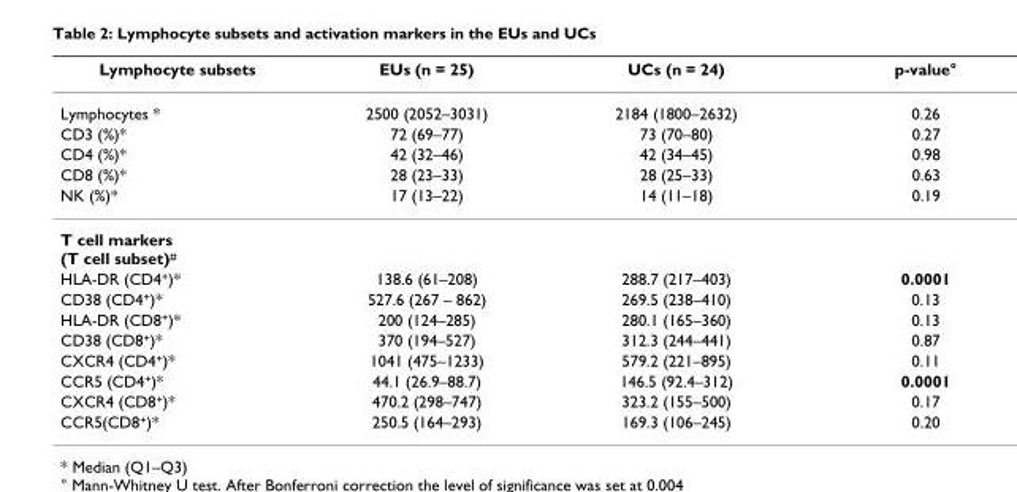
<table><thead><tr><td>Lymphocyte subsets</td><td>EUs (n = 25)</td><td>UCs (n = 24)</td><td>p-value°</td></tr></thead><tbody><tr><td>Lymphocytes *</td><td>2500 (2052–3031)</td><td>2184 (1800–2632)</td><td>0.26</td></tr><tr><td>CD3 (%)*</td><td>72 (69–77)</td><td>73 (70–80)</td><td>0.27</td></tr><tr><td>CD4 (%)*</td><td>42 (32–46)</td><td>42 (34–45)</td><td>0.98</td></tr><tr><td>CD8 (%)*</td><td>28 (23–33)</td><td>28 (25–33)</td><td>0.63</td></tr><tr><td>NK (%)*</td><td>17 (13–22)</td><td>14 (11–18)</td><td>0.19</td></tr><tr><td colspan="4">T cell markers (T cell subset)<sup>#</sup></td></tr><tr><td>HLA-DR (CD4<sup>+</sup>)*</td><td>138.6 (61–208)</td><td>288.7 (217–403)</td><td>0.0001</td></tr><tr><td>CD38 (CD4<sup>+</sup>)*</td><td>527.6 (267 – 862)</td><td>269.5 (238–410)</td><td>0.13</td></tr><tr><td>HLA-DR (CD8<sup>+</sup>)*</td><td>200 (124–285)</td><td>280.1 (165–360)</td><td>0.13</td></tr><tr><td>CD38 (CD8<sup>+</sup>)*</td><td>370 (194–527)</td><td>312.3 (244–441)</td><td>0.87</td></tr><tr><td>CXCR4 (CD4<sup>+</sup>)*</td><td>1041 (475–1233)</td><td>579.2 (221–895)</td><td>0.11</td></tr><tr><td>CCR5 (CD4<sup>+</sup>)*</td><td>44.1 (26.9–88.7)</td><td>146.5 (92.4–312)</td><td>0.0001</td></tr><tr><td>CXCR4 (CD8<sup>+</sup>)*</td><td>470.2 (298–747)</td><td>323.2 (155–500)</td><td>0.17</td></tr><tr><td>CCR5(CD8<sup>+</sup>)*</td><td>250.5 (164–293)</td><td>169.3 (106–245)</td><td>0.20</td></tr></tbody></table>